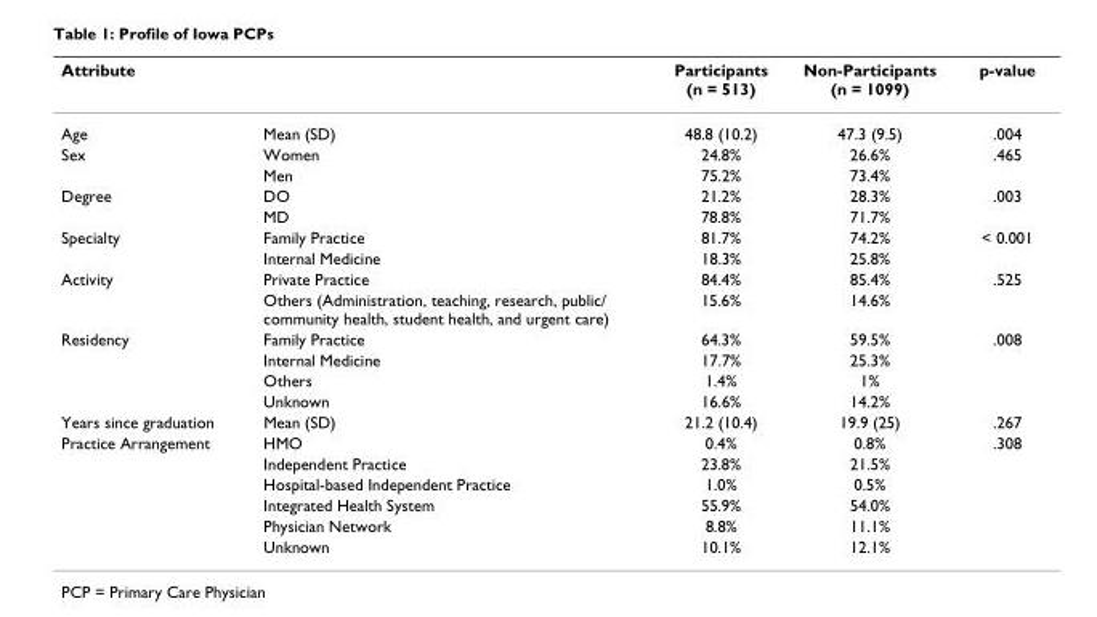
<table><thead><tr><td>Attribute</td><td></td><td>Participants (n = 513)</td><td>Non-Participants (n = 1099)</td><td>p-value</td></tr></thead><tbody><tr><td>Age</td><td>Mean (SD)</td><td>48.8 (10.2)</td><td>47.3 (9.5)</td><td>.004</td></tr><tr><td rowspan="2">Sex</td><td>Women</td><td>24.8%</td><td>26.6%</td><td>.465</td></tr><tr><td>Men</td><td>75.2%</td><td>73.4%</td><td></td></tr><tr><td rowspan="2">Degree</td><td>DO</td><td>21.2%</td><td>28.3%</td><td>.003</td></tr><tr><td>MD</td><td>78.8%</td><td>71.7%</td><td></td></tr><tr><td rowspan="2">Specialty</td><td>Family Practice</td><td>81.7%</td><td>74.2%</td><td>&lt; 0.001</td></tr><tr><td>Internal Medicine</td><td>18.3%</td><td>25.8%</td><td></td></tr><tr><td rowspan="2">Activity</td><td>Private Practice</td><td>84.4%</td><td>85.4%</td><td>.525</td></tr><tr><td>Others (Administration, teaching, research, public/ community health, student health, and urgent care)</td><td>15.6%</td><td>14.6%</td><td></td></tr><tr><td rowspan="4">Residency</td><td>Family Practice</td><td>64.3%</td><td>59.5%</td><td>.008</td></tr><tr><td>Internal Medicine</td><td>17.7%</td><td>25.3%</td><td></td></tr><tr><td>Others</td><td>1.4%</td><td>1%</td><td></td></tr><tr><td>Unknown</td><td>16.6%</td><td>14.2%</td><td></td></tr><tr><td>Years since graduation</td><td>Mean (SD)</td><td>21.2 (10.4)</td><td>19.9 (25)</td><td>.267</td></tr><tr><td rowspan="6">Practice Arrangement</td><td>HMO</td><td>0.4%</td><td>0.8%</td><td>.308</td></tr><tr><td>Independent Practice</td><td>23.8%</td><td>21.5%</td><td></td></tr><tr><td>Hospital-based Independent Practice</td><td>1.0%</td><td>0.5%</td><td></td></tr><tr><td>Integrated Health System</td><td>55.9%</td><td>54.0%</td><td></td></tr><tr><td>Physician Network</td><td>8.8%</td><td>11.1%</td><td></td></tr><tr><td>Unknown</td><td>10.1%</td><td>12.1%</td><td></td></tr></tbody></table>